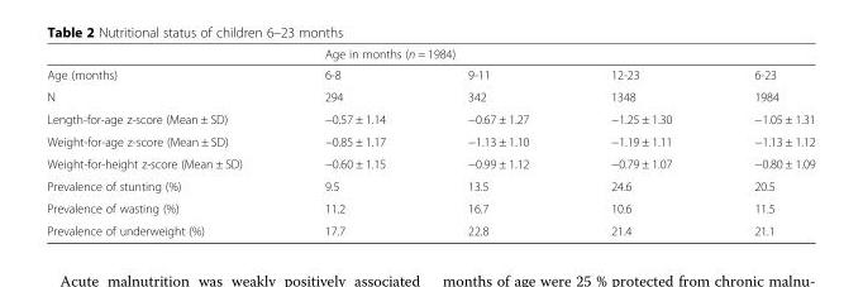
<table><thead><tr><td rowspan="2">Age (months)</td><td colspan="4">Age in months (n = 1984)</td></tr><tr><td>6-8</td><td>9-11</td><td>12-23</td><td>6-23</td></tr></thead><tbody><tr><td>N</td><td>294</td><td>342</td><td>1348</td><td>1984</td></tr><tr><td>Length-for-age z-score (Mean ± SD)</td><td>−0.57 ± 1.14</td><td>−0.67 ± 1.27</td><td>−1.25 ± 1.30</td><td>−1.05 ± 1.31</td></tr><tr><td>Weight-for-age z-score (Mean ± SD)</td><td>−0.85 ± 1.17</td><td>−1.13 ± 1.10</td><td>−1.19 ± 1.11</td><td>−1.13 ± 1.12</td></tr><tr><td>Weight-for-height z-score (Mean ± SD)</td><td>−0.60 ± 1.15</td><td>−0.99 ± 1.12</td><td>−0.79 ± 1.07</td><td>−0.80 ± 1.09</td></tr><tr><td>Prevalence of stunting (%)</td><td>9.5</td><td>13.5</td><td>24.6</td><td>20.5</td></tr><tr><td>Prevalence of wasting (%)</td><td>11.2</td><td>16.7</td><td>10.6</td><td>11.5</td></tr><tr><td>Prevalence of underweight (%)</td><td>17.7</td><td>22.8</td><td>21.4</td><td>21.1</td></tr></tbody></table>